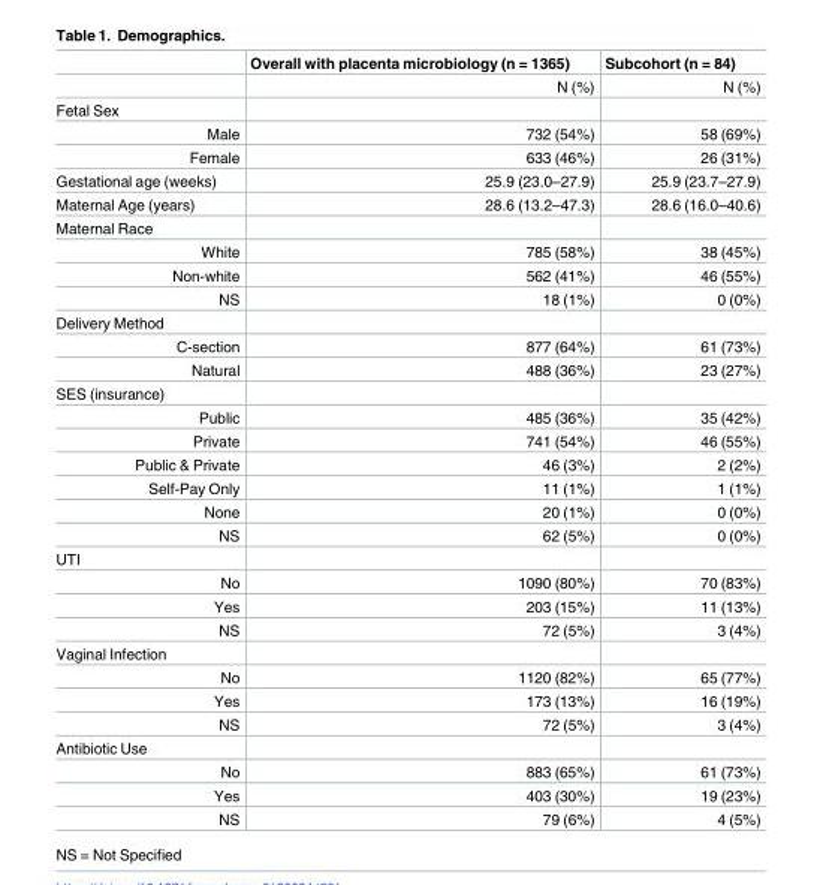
<table><thead><tr><td></td><td>Overall with placenta microbiology (n = 1365)</td><td>Subcohort (n = 84)</td></tr></thead><tbody><tr><td></td><td>N (%)</td><td>N (%)</td></tr><tr><td colspan="3">Fetal Sex</td></tr><tr><td>Male</td><td>732 (54%)</td><td>58 (69%)</td></tr><tr><td>Female</td><td>633 (46%)</td><td>26 (31%)</td></tr><tr><td>Gestational age (weeks)</td><td>25.9 (23.0–27.9)</td><td>25.9 (23.7–27.9)</td></tr><tr><td>Maternal Age (years)</td><td>28.6 (13.2–47.3)</td><td>28.6 (16.0–40.6)</td></tr><tr><td colspan="3">Maternal Race</td></tr><tr><td>White</td><td>785 (58%)</td><td>38 (45%)</td></tr><tr><td>Non-white</td><td>562 (41%)</td><td>46 (55%)</td></tr><tr><td>NS</td><td>18 (1%)</td><td>0 (0%)</td></tr><tr><td colspan="3">Delivery Method</td></tr><tr><td>C-section</td><td>877 (64%)</td><td>61 (73%)</td></tr><tr><td>Natural</td><td>488 (36%)</td><td>23 (27%)</td></tr><tr><td colspan="3">SES (insurance)</td></tr><tr><td>Public</td><td>485 (36%)</td><td>35 (42%)</td></tr><tr><td>Private</td><td>741 (54%)</td><td>46 (55%)</td></tr><tr><td>Public &amp; Private</td><td>46 (3%)</td><td>2 (2%)</td></tr><tr><td>Self-Pay Only</td><td>11 (1%)</td><td>1 (1%)</td></tr><tr><td>None</td><td>20 (1%)</td><td>0 (0%)</td></tr><tr><td>NS</td><td>62 (5%)</td><td>0 (0%)</td></tr><tr><td colspan="3">UTI</td></tr><tr><td>No</td><td>1090 (80%)</td><td>70 (83%)</td></tr><tr><td>Yes</td><td>203 (15%)</td><td>11 (13%)</td></tr><tr><td>NS</td><td>72 (5%)</td><td>3 (4%)</td></tr><tr><td colspan="3">Vaginal Infection</td></tr><tr><td>No</td><td>1120 (82%)</td><td>65 (77%)</td></tr><tr><td>Yes</td><td>173 (13%)</td><td>16 (19%)</td></tr><tr><td>NS</td><td>72 (5%)</td><td>3 (4%)</td></tr><tr><td colspan="3">Antibiotic Use</td></tr><tr><td>No</td><td>883 (65%)</td><td>61 (73%)</td></tr><tr><td>Yes</td><td>403 (30%)</td><td>19 (23%)</td></tr><tr><td>NS</td><td>79 (6%)</td><td>4 (5%)</td></tr></tbody></table>